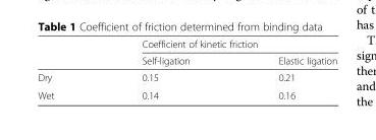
<table><thead><tr><td rowspan="2"></td><td colspan="2">Coefficient of kinetic friction</td></tr><tr><td>Self-ligation</td><td>Elastic ligation</td></tr></thead><tbody><tr><td>Dry</td><td>0.15</td><td>0.21</td></tr><tr><td>Wet</td><td>0.14</td><td>0.16</td></tr></tbody></table>